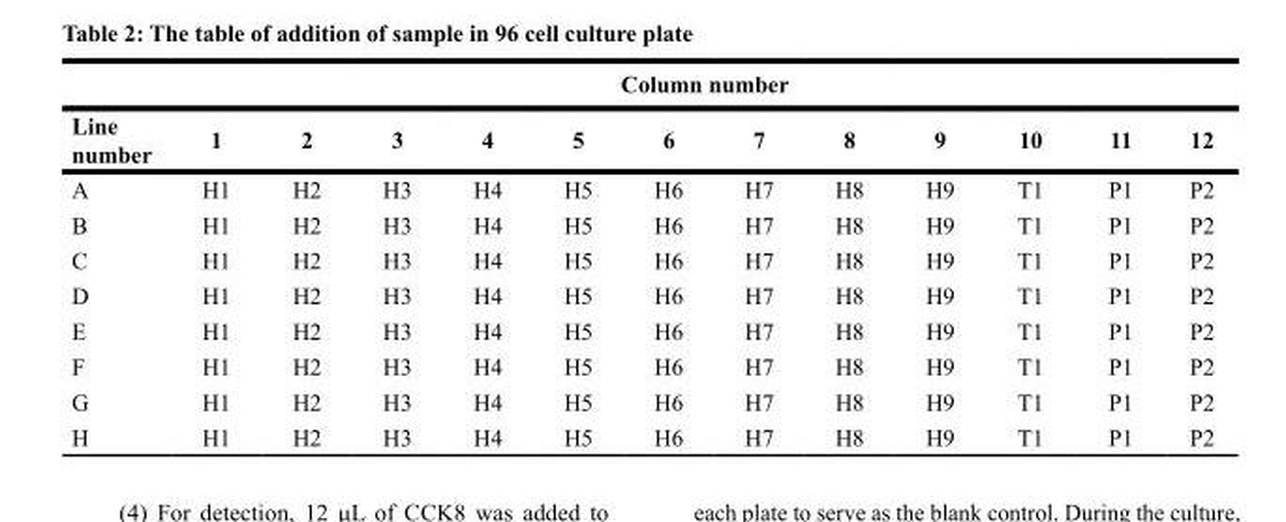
<table><thead><tr><td rowspan="2">Line number</td><td colspan="12">Column number</td></tr><tr><td>1</td><td>2</td><td>3</td><td>4</td><td>5</td><td>6</td><td>7</td><td>8</td><td>9</td><td>10</td><td>11</td><td>12</td></tr></thead><tbody><tr><td>A</td><td>H1</td><td>H2</td><td>H3</td><td>H4</td><td>H5</td><td>H6</td><td>H7</td><td>H8</td><td>H9</td><td>T1</td><td>P1</td><td>P2</td></tr><tr><td>B</td><td>H1</td><td>H2</td><td>H3</td><td>H4</td><td>H5</td><td>H6</td><td>H7</td><td>H8</td><td>H9</td><td>T1</td><td>P1</td><td>P2</td></tr><tr><td>C</td><td>H1</td><td>H2</td><td>H3</td><td>H4</td><td>H5</td><td>H6</td><td>H7</td><td>H8</td><td>H9</td><td>T1</td><td>P1</td><td>P2</td></tr><tr><td>D</td><td>H1</td><td>H2</td><td>H3</td><td>H4</td><td>H5</td><td>H6</td><td>H7</td><td>H8</td><td>H9</td><td>T1</td><td>P1</td><td>P2</td></tr><tr><td>E</td><td>H1</td><td>H2</td><td>H3</td><td>H4</td><td>H5</td><td>H6</td><td>H7</td><td>H8</td><td>H9</td><td>T1</td><td>P1</td><td>P2</td></tr><tr><td>F</td><td>H1</td><td>H2</td><td>H3</td><td>H4</td><td>H5</td><td>H6</td><td>H7</td><td>H8</td><td>H9</td><td>T1</td><td>P1</td><td>P2</td></tr><tr><td>G</td><td>H1</td><td>H2</td><td>H3</td><td>H4</td><td>H5</td><td>H6</td><td>H7</td><td>H8</td><td>H9</td><td>T1</td><td>P1</td><td>P2</td></tr><tr><td>H</td><td>H1</td><td>H2</td><td>H3</td><td>H4</td><td>H5</td><td>H6</td><td>H7</td><td>H8</td><td>H9</td><td>T1</td><td>P1</td><td>P2</td></tr></tbody></table>